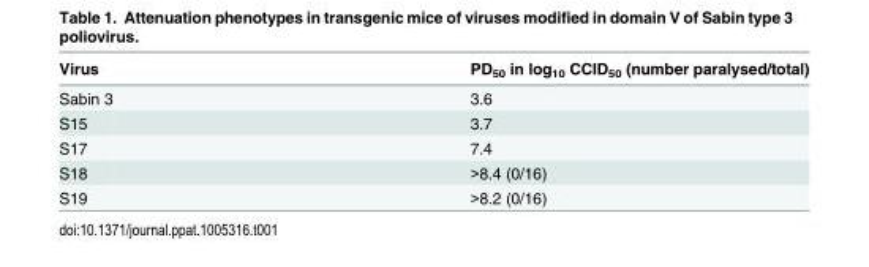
<table><thead><tr><td>Virus</td><td>PD<sub>50</sub> in log<sub>10</sub> CCID<sub>50</sub> (number paralysed/total)</td></tr></thead><tbody><tr><td>Sabin 3</td><td>3.6</td></tr><tr><td>S15</td><td>3.7</td></tr><tr><td>S17</td><td>7.4</td></tr><tr><td>S18</td><td>&gt;8.4 (0/16)</td></tr><tr><td>S19</td><td>&gt;8.2 (0/16)</td></tr></tbody></table>